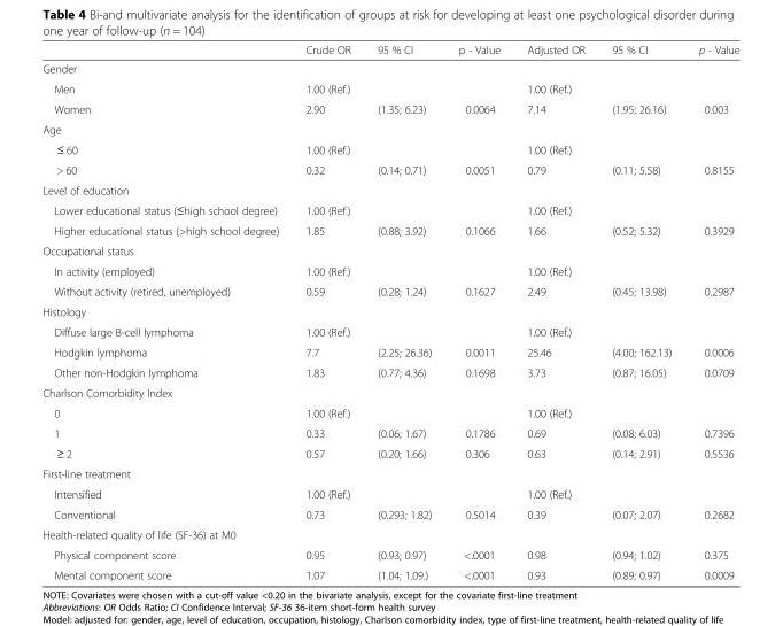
<table><thead><tr><td></td><td>Crude OR</td><td>95 % CI</td><td>p - Value</td><td>Adjusted OR</td><td>95 % CI</td><td>p - Value</td></tr></thead><tbody><tr><td colspan="7">Gender</td></tr><tr><td>Men</td><td>1.00 (Ref.)</td><td></td><td></td><td>1.00 (Ref.)</td><td></td><td></td></tr><tr><td>Women</td><td>2.90</td><td>(1.35; 6.23)</td><td>0.0064</td><td>7.14</td><td>(1.95; 26.16)</td><td>0.003</td></tr><tr><td colspan="7">Age</td></tr><tr><td>≤ 60</td><td>1.00 (Ref.)</td><td></td><td></td><td>1.00 (Ref.)</td><td></td><td></td></tr><tr><td>&gt; 60</td><td>0.32</td><td>(0.14; 0.71)</td><td>0.0051</td><td>0.79</td><td>(0.11; 5.58)</td><td>0.8155</td></tr><tr><td colspan="7">Level of education</td></tr><tr><td>Lower educational status (≤high school degree)</td><td>1.00 (Ref.)</td><td></td><td></td><td>1.00 (Ref.)</td><td></td><td></td></tr><tr><td>Higher educational status (&gt;high school degree)</td><td>1.85</td><td>(0.88; 3.92)</td><td>0.1066</td><td>1.66</td><td>(0.52; 5.32)</td><td>0.3929</td></tr><tr><td colspan="7">Occupational status</td></tr><tr><td>In activity (employed)</td><td>1.00 (Ref.)</td><td></td><td></td><td>1.00 (Ref.)</td><td></td><td></td></tr><tr><td>Without activity (retired, unemployed)</td><td>0.59</td><td>(0.28; 1.24)</td><td>0.1627</td><td>2.49</td><td>(0.45; 13.98)</td><td>0.2987</td></tr><tr><td colspan="7">Histology</td></tr><tr><td>Diffuse large B-cell lymphoma</td><td>1.00 (Ref.)</td><td></td><td></td><td>1.00 (Ref.)</td><td></td><td></td></tr><tr><td>Hodgkin lymphoma</td><td>7.7</td><td>(2.25; 26.36)</td><td>0.0011</td><td>25.46</td><td>(4.00; 162.13)</td><td>0.0006</td></tr><tr><td>Other non-Hodgkin lymphoma</td><td>1.83</td><td>(0.77; 4.36)</td><td>0.1698</td><td>3.73</td><td>(0.87; 16.05)</td><td>0.0709</td></tr><tr><td colspan="7">Charlson Comorbidity Index</td></tr><tr><td>0</td><td>1.00 (Ref.)</td><td></td><td></td><td>1.00 (Ref.)</td><td></td><td></td></tr><tr><td>1</td><td>0.33</td><td>(0.06; 1.67)</td><td>0.1786</td><td>0.69</td><td>(0.08; 6.03)</td><td>0.7396</td></tr><tr><td>≥ 2</td><td>0.57</td><td>(0.20; 1.66)</td><td>0.306</td><td>0.63</td><td>(0.14; 2.91)</td><td>0.5536</td></tr><tr><td colspan="7">First-line treatment</td></tr><tr><td>Intensified</td><td>1.00 (Ref.)</td><td></td><td></td><td>1.00 (Ref.)</td><td></td><td></td></tr><tr><td>Conventional</td><td>0.73</td><td>(0.293; 1.82)</td><td>0.5014</td><td>0.39</td><td>(0.07; 2.07)</td><td>0.2682</td></tr><tr><td colspan="7">Health-related quality of life (SF-36) at M0</td></tr><tr><td>Physical component score</td><td>0.95</td><td>(0.93; 0.97)</td><td>&lt;.0001</td><td>0.98</td><td>(0.94; 1.02)</td><td>0.375</td></tr><tr><td>Mental component score</td><td>1.07</td><td>(1.04; 1.09.)</td><td>&lt;.0001</td><td>0.93</td><td>(0.89; 0.97)</td><td>0.0009</td></tr></tbody></table>